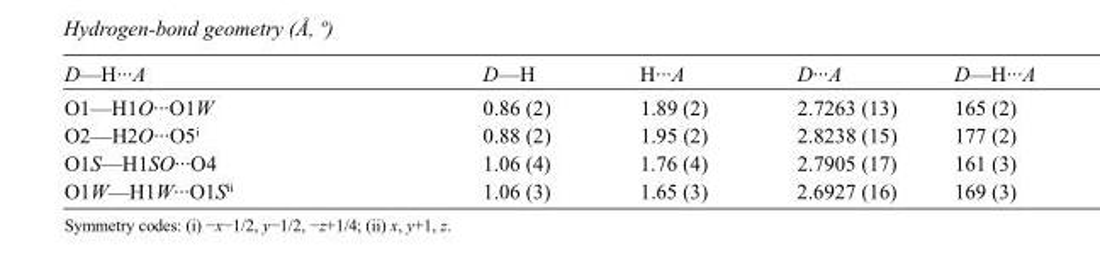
<table><tbody><tr><td>D—H···A</td><td>D—H</td><td>H···A</td><td>D···A</td><td>D—H···A</td></tr><tr><td>O1—H1O···O1W</td><td>0.86 (2)</td><td>1.89 (2)</td><td>2.7263 (13)</td><td>165 (2)</td></tr><tr><td>O2—H2O···O5<sup>i</sup></td><td>0.88 (2)</td><td>1.95 (2)</td><td>2.8238 (15)</td><td>177 (2)</td></tr><tr><td>O1S—H1SO···O4</td><td>1.06 (4)</td><td>1.76 (4)</td><td>2.7905 (17)</td><td>161 (3)</td></tr><tr><td>O1W—H1W···O1S<sup>ii</sup></td><td>1.06 (3)</td><td>1.65 (3)</td><td>2.6927 (16)</td><td>169 (3)</td></tr></tbody></table>